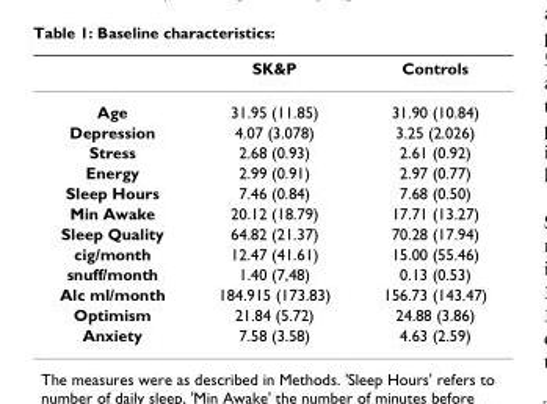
<table><thead><tr><td></td><td>SK&amp;P</td><td>Controls</td></tr></thead><tbody><tr><td>Age</td><td>31.95 (11.85)</td><td>31.90 (10.84)</td></tr><tr><td>Depression</td><td>4.07 (3.078)</td><td>3.25 (2.026)</td></tr><tr><td>Stress</td><td>2.68 (0.93)</td><td>2.61 (0.92)</td></tr><tr><td>Energy</td><td>2.99 (0.91)</td><td>2.97 (0.77)</td></tr><tr><td>Sleep Hours</td><td>7.46 (0.84)</td><td>7.68 (0.50)</td></tr><tr><td>Min Awake</td><td>20.12 (18.79)</td><td>17.71 (13.27)</td></tr><tr><td>Sleep Quality</td><td>64.82 (21.37)</td><td>70.28 (17.94)</td></tr><tr><td>cig/month</td><td>12.47 (41.61)</td><td>15.00 (55.46)</td></tr><tr><td>snuff/month</td><td>1.40 (7,48)</td><td>0.13 (0.53)</td></tr><tr><td>Alc ml/month</td><td>184.915 (173.83)</td><td>156.73 (143.47)</td></tr><tr><td>Optimism</td><td>21.84 (5.72)</td><td>24.88 (3.86)</td></tr><tr><td>Anxiety</td><td>7.58 (3.58)</td><td>4.63 (2.59)</td></tr></tbody></table>